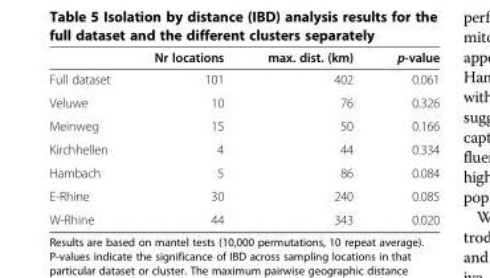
<table><thead><tr><td></td><td>Nr locations</td><td>max. dist. (km)</td><td>p-value</td></tr></thead><tbody><tr><td>Full dataset</td><td>101</td><td>402</td><td>0.061</td></tr><tr><td>Veluwe</td><td>10</td><td>76</td><td>0.326</td></tr><tr><td>Meinweg</td><td>15</td><td>50</td><td>0.166</td></tr><tr><td>Kirchhellen</td><td>4</td><td>44</td><td>0.334</td></tr><tr><td>Hambach</td><td>5</td><td>86</td><td>0.084</td></tr><tr><td>E-Rhine</td><td>30</td><td>240</td><td>0.085</td></tr><tr><td>W-Rhine</td><td>44</td><td>343</td><td>0.020</td></tr></tbody></table>